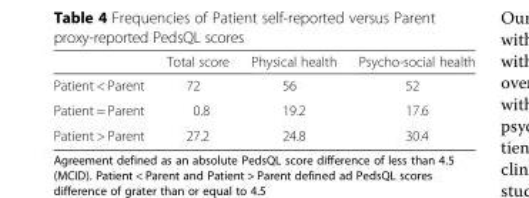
<table><thead><tr><td></td><td>Total score</td><td>Physical health</td><td>Psycho-social health</td></tr></thead><tbody><tr><td>Patient &lt; Parent</td><td>72</td><td>56</td><td>52</td></tr><tr><td>Patient = Parent</td><td>0.8</td><td>19.2</td><td>17.6</td></tr><tr><td>Patient &gt; Parent</td><td>27.2</td><td>24.8</td><td>30.4</td></tr></tbody></table>